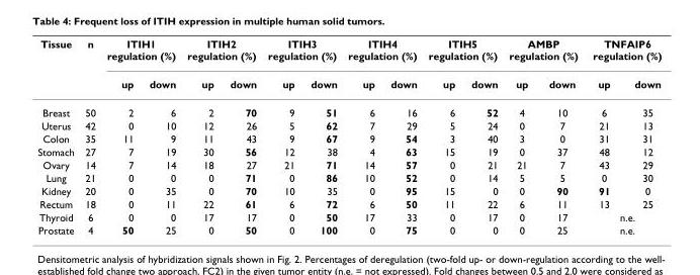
<table><thead><tr><td rowspan="2">Tissue</td><td rowspan="2">n</td><td colspan="2">ITIH1 regulation (%)</td><td colspan="2">ITIH2 regulation (%)</td><td colspan="2">ITIH3 regulation (%)</td><td colspan="2">ITIH4 regulation (%)</td><td colspan="2">ITIH5 regulation (%)</td><td colspan="2">AMBP regulation (%)</td><td colspan="2">TNFAIP6 regulation (%)</td></tr><tr><td>up</td><td>down</td><td>up</td><td>down</td><td>up</td><td>down</td><td>up</td><td>down</td><td>up</td><td>down</td><td>up</td><td>down</td><td>up</td><td>down</td></tr></thead><tbody><tr><td>Breast</td><td>50</td><td>2</td><td>6</td><td>2</td><td>70</td><td>9</td><td>51</td><td>6</td><td>16</td><td>6</td><td>52</td><td>4</td><td>10</td><td>6</td><td>35</td></tr><tr><td>Uterus</td><td>42</td><td>0</td><td>10</td><td>12</td><td>26</td><td>5</td><td>62</td><td>7</td><td>29</td><td>5</td><td>24</td><td>0</td><td>7</td><td>21</td><td>13</td></tr><tr><td>Colon</td><td>35</td><td>11</td><td>9</td><td>11</td><td>43</td><td>9</td><td>67</td><td>9</td><td>54</td><td>3</td><td>40</td><td>3</td><td>0</td><td>31</td><td>31</td></tr><tr><td>Stomach</td><td>27</td><td>7</td><td>19</td><td>30</td><td>56</td><td>12</td><td>38</td><td>4</td><td>63</td><td>15</td><td>19</td><td>0</td><td>37</td><td>48</td><td>12</td></tr><tr><td>Ovary</td><td>14</td><td>7</td><td>14</td><td>18</td><td>27</td><td>21</td><td>71</td><td>14</td><td>57</td><td>0</td><td>21</td><td>21</td><td>7</td><td>43</td><td>29</td></tr><tr><td>Lung</td><td>21</td><td>0</td><td>0</td><td>0</td><td>71</td><td>0</td><td>86</td><td>10</td><td>52</td><td>0</td><td>14</td><td>5</td><td>5</td><td>0</td><td>30</td></tr><tr><td>Kidney</td><td>20</td><td>0</td><td>35</td><td>0</td><td>70</td><td>10</td><td>35</td><td>0</td><td>95</td><td>15</td><td>0</td><td>0</td><td>90</td><td>91</td><td>0</td></tr><tr><td>Rectum</td><td>18</td><td>0</td><td>11</td><td>22</td><td>61</td><td>6</td><td>72</td><td>6</td><td>50</td><td>11</td><td>22</td><td>6</td><td>11</td><td>13</td><td>25</td></tr><tr><td>Thyroid</td><td>6</td><td>0</td><td>0</td><td>17</td><td>17</td><td>0</td><td>50</td><td>17</td><td>33</td><td>0</td><td>17</td><td>0</td><td>17</td><td colspan="2">n.e.</td></tr><tr><td>Prostate</td><td>4</td><td>50</td><td>25</td><td>0</td><td>50</td><td>0</td><td>100</td><td>0</td><td>75</td><td>0</td><td>0</td><td>0</td><td>25</td><td colspan="2">n.e.</td></tr></tbody></table>